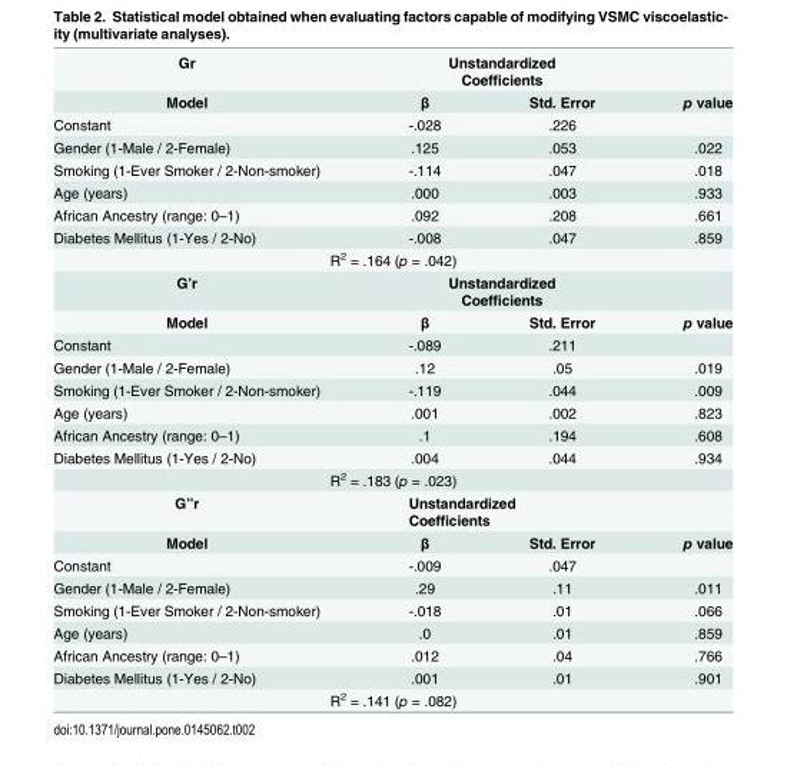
<table><tbody><tr><td>Gr</td><td colspan="2">Unstandardized Coefficients</td><td></td></tr><tr><td>Model</td><td>β</td><td>Std. Error</td><td>p value</td></tr><tr><td>Constant</td><td>-.028</td><td>.226</td><td></td></tr><tr><td>Gender (1-Male / 2-Female)</td><td>.125</td><td>.053</td><td>.022</td></tr><tr><td>Smoking (1-Ever Smoker / 2-Non-smoker)</td><td>-.114</td><td>.047</td><td>.018</td></tr><tr><td>Age (years)</td><td>.000</td><td>.003</td><td>.933</td></tr><tr><td>African Ancestry (range: 0–1)</td><td>.092</td><td>.208</td><td>.661</td></tr><tr><td>Diabetes Mellitus (1-Yes / 2-No)</td><td>-.008</td><td>.047</td><td>.859</td></tr><tr><td colspan="4">R<sup>2</sup> = .164 (p = .042)</td></tr><tr><td>G’r</td><td colspan="2">Unstandardized Coefficients</td><td></td></tr><tr><td>Model</td><td>β</td><td>Std. Error</td><td>p value</td></tr><tr><td>Constant</td><td>-.089</td><td>.211</td><td></td></tr><tr><td>Gender (1-Male / 2-Female)</td><td>.12</td><td>.05</td><td>.019</td></tr><tr><td>Smoking (1-Ever Smoker / 2-Non-smoker)</td><td>-.119</td><td>.044</td><td>.009</td></tr><tr><td>Age (years)</td><td>.001</td><td>.002</td><td>.823</td></tr><tr><td>African Ancestry (range: 0–1)</td><td>.1</td><td>.194</td><td>.608</td></tr><tr><td>Diabetes Mellitus (1-Yes / 2-No)</td><td>.004</td><td>.044</td><td>.934</td></tr><tr><td colspan="4">R<sup>2</sup> = .183 (p = .023)</td></tr><tr><td>G”r</td><td colspan="2">Unstandardized Coefficients</td><td></td></tr><tr><td>Model</td><td>β</td><td>Std. Error</td><td>p value</td></tr><tr><td>Constant</td><td>-.009</td><td>.047</td><td></td></tr><tr><td>Gender (1-Male / 2-Female)</td><td>.29</td><td>.11</td><td>.011</td></tr><tr><td>Smoking (1-Ever Smoker / 2-Non-smoker)</td><td>-.018</td><td>.01</td><td>.066</td></tr><tr><td>Age (years)</td><td>.0</td><td>.01</td><td>.859</td></tr><tr><td>African Ancestry (range: 0–1)</td><td>.012</td><td>.04</td><td>.766</td></tr><tr><td>Diabetes Mellitus (1-Yes / 2-No)</td><td>.001</td><td>.01</td><td>.901</td></tr><tr><td colspan="4">R<sup>2</sup> = .141 (p = .082)</td></tr></tbody></table>